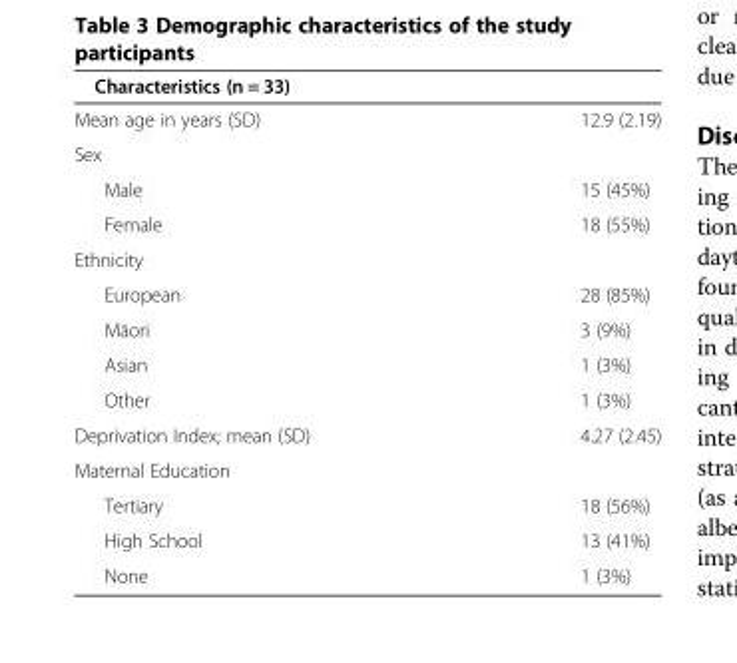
<table><thead><tr><td>Characteristics (n = 33)</td><td></td></tr></thead><tbody><tr><td>Mean age in years (SD)</td><td>12.9 (2.19)</td></tr><tr><td colspan="2">Sex</td></tr><tr><td>Male</td><td>15 (45%)</td></tr><tr><td>Female</td><td>18 (55%)</td></tr><tr><td colspan="2">Ethnicity</td></tr><tr><td>European</td><td>28 (85%)</td></tr><tr><td>Māori</td><td>3 (9%)</td></tr><tr><td>Asian</td><td>1 (3%)</td></tr><tr><td>Other</td><td>1 (3%)</td></tr><tr><td>Deprivation Index; mean (SD)</td><td>4.27 (2.45)</td></tr><tr><td colspan="2">Maternal Education</td></tr><tr><td>Tertiary</td><td>18 (56%)</td></tr><tr><td>High School</td><td>13 (41%)</td></tr><tr><td>None</td><td>1 (3%)</td></tr></tbody></table>